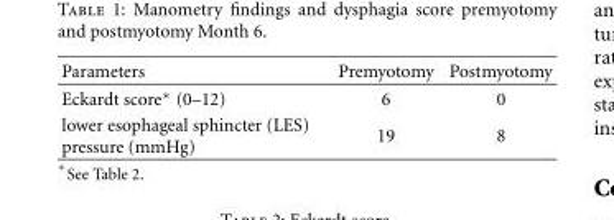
<table><thead><tr><td>Parameters</td><td>Premyotomy</td><td>Postmyotomy</td></tr></thead><tbody><tr><td>Eckardt score∗ (0–12)</td><td>6</td><td>0</td></tr><tr><td>lower esophageal sphincter (LES) pressure (mmHg)</td><td>19</td><td>8</td></tr></tbody></table>